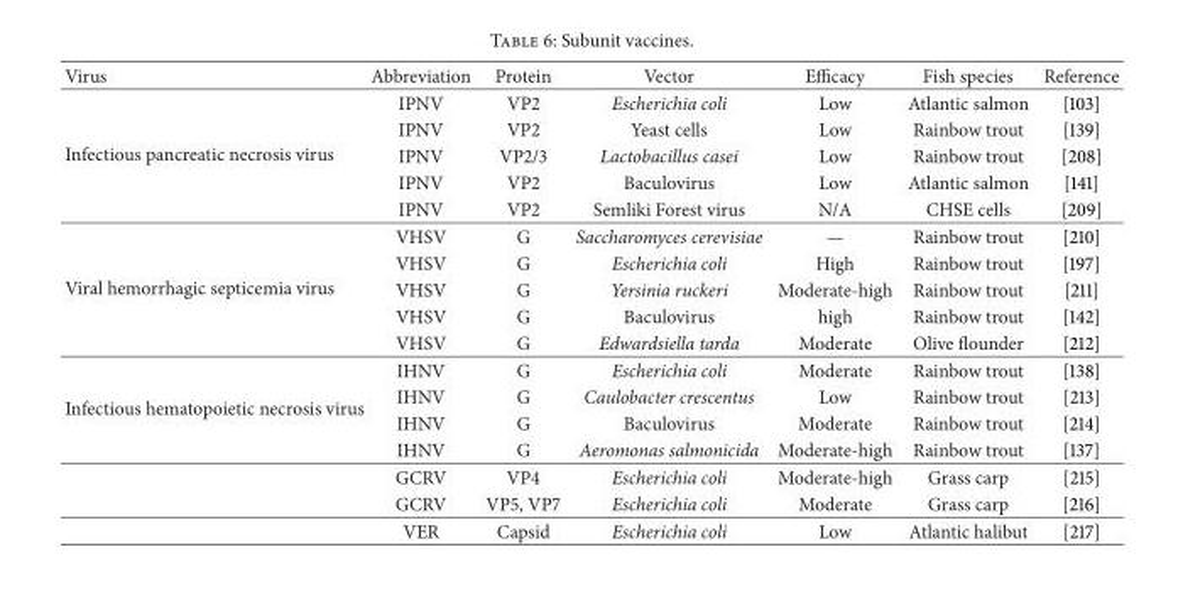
<table><thead><tr><td>Virus</td><td>Abbreviation</td><td>Protein</td><td>Vector</td><td>Efficacy</td><td>Fish species</td><td>Reference</td></tr></thead><tbody><tr><td rowspan="5">Infectious pancreatic necrosis virus</td><td>IPNV</td><td>VP2</td><td>Escherichia coli</td><td>Low</td><td>Atlantic salmon</td><td>[103]</td></tr><tr><td>IPNV</td><td>VP2</td><td>Yeast cells</td><td>Low</td><td>Rainbow trout</td><td>[139]</td></tr><tr><td>IPNV</td><td>VP2/3</td><td>Lactobacillus casei</td><td>Low</td><td>Rainbow trout</td><td>[208]</td></tr><tr><td>IPNV</td><td>VP2</td><td>Baculovirus</td><td>Low</td><td>Atlantic salmon</td><td>[141]</td></tr><tr><td>IPNV</td><td>VP2</td><td>Semliki Forest virus</td><td>N/A</td><td>CHSE cells</td><td>[209]</td></tr><tr><td rowspan="5">Viral hemorrhagic septicemia virus</td><td>VHSV</td><td>G</td><td>Saccharomyces cerevisiae</td><td>—</td><td>Rainbow trout</td><td>[210]</td></tr><tr><td>VHSV</td><td>G</td><td>Escherichia coli</td><td>High</td><td>Rainbow trout</td><td>[197]</td></tr><tr><td>VHSV</td><td>G</td><td>Yersinia ruckeri</td><td>Moderate-high</td><td>Rainbow trout</td><td>[211]</td></tr><tr><td>VHSV</td><td>G</td><td>Baculovirus</td><td>high</td><td>Rainbow trout</td><td>[142]</td></tr><tr><td>VHSV</td><td>G</td><td>Edwardsiella tarda</td><td>Moderate</td><td>Olive flounder</td><td>[212]</td></tr><tr><td rowspan="7">Infectious hematopoietic necrosis virus</td><td>IHNV</td><td>G</td><td>Escherichia coli</td><td>Moderate</td><td>Rainbow trout</td><td>[138]</td></tr><tr><td>IHNV</td><td>G</td><td>Caulobacter crescentus</td><td>Low</td><td>Rainbow trout</td><td>[213]</td></tr><tr><td>IHNV</td><td>G</td><td>Baculovirus</td><td>Moderate</td><td>Rainbow trout</td><td>[214]</td></tr><tr><td>IHNV</td><td>G</td><td>Aeromonas salmonicida</td><td>Moderate-high</td><td>Rainbow trout</td><td>[137]</td></tr><tr><td>GCRV</td><td>VP4</td><td>Escherichia coli</td><td>Moderate-high</td><td>Grass carp</td><td>[215]</td></tr><tr><td>GCRV</td><td>VP5, VP7</td><td>Escherichia coli</td><td>Moderate</td><td>Grass carp</td><td>[216]</td></tr><tr><td>VER</td><td>Capsid</td><td>Escherichia coli</td><td>Low</td><td>Atlantic halibut</td><td>[217]</td></tr></tbody></table>